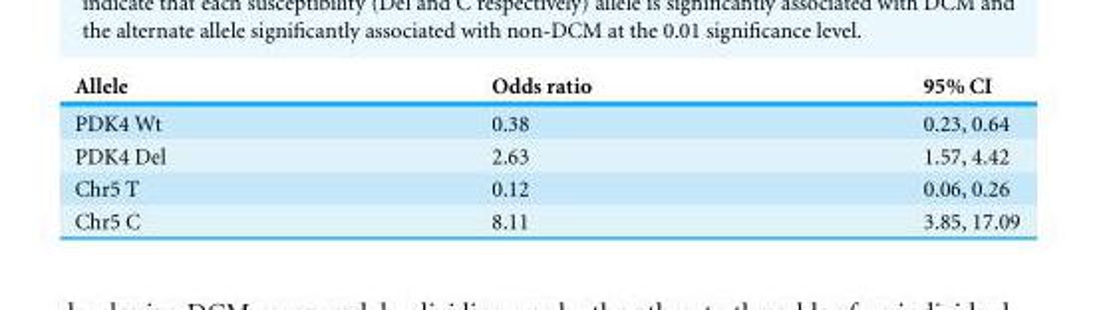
<table><thead><tr><td>Allele</td><td>Odds ratio</td><td>95% CI</td></tr></thead><tbody><tr><td>PDK4 Wt</td><td>0.38</td><td>0.23, 0.64</td></tr><tr><td>PDK4 Del</td><td>2.63</td><td>1.57, 4.42</td></tr><tr><td>Chr5 T</td><td>0.12</td><td>0.06, 0.26</td></tr><tr><td>Chr5 C</td><td>8.11</td><td>3.85, 17.09</td></tr></tbody></table>